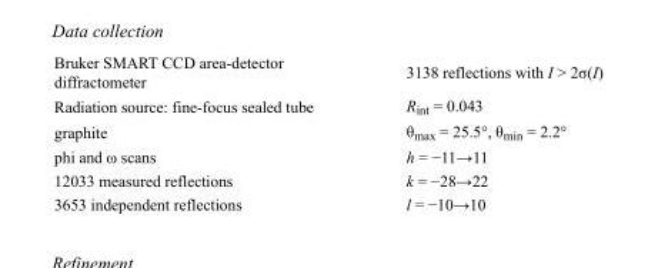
<table><tbody><tr><td>Bruker SMART CCD area-detector diffractometer</td><td>3138 reflections with I &gt; 2σ(I)</td></tr><tr><td>Radiation source: fine-focus sealed tube</td><td>R<sub>int</sub> = 0.043</td></tr><tr><td>graphite</td><td>θ<sub>max</sub> = 25.5°, θ<sub>min</sub> = 2.2°</td></tr><tr><td>phi and ω scans</td><td>h = −11→11</td></tr><tr><td>12033 measured reflections</td><td>k = −28→22</td></tr><tr><td>3653 independent reflections</td><td>l = −10→10</td></tr></tbody></table>